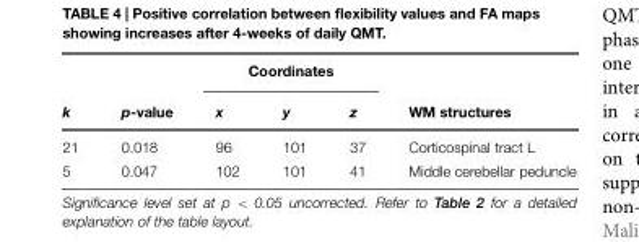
<table><thead><tr><td rowspan="2">k</td><td rowspan="2">p-value</td><td colspan="3">Coordinates</td><td rowspan="2">WM structures</td></tr><tr><td>x</td><td>y</td><td>z</td></tr></thead><tbody><tr><td>21</td><td>0.018</td><td>96</td><td>101</td><td>37</td><td>Corticospinal tract L</td></tr><tr><td>5</td><td>0.047</td><td>102</td><td>101</td><td>41</td><td>Middle cerebellar peduncle</td></tr></tbody></table>